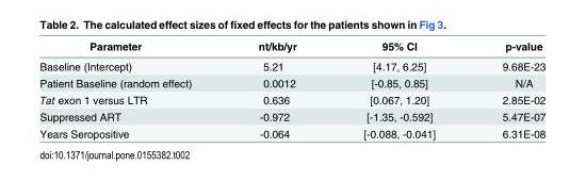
<table><thead><tr><td>Parameter</td><td>nt/kb/yr</td><td>95% CI</td><td>p-value</td></tr></thead><tbody><tr><td>Baseline (Intercept)</td><td>5.21</td><td>[4.17, 6.25]</td><td>9.68E-23</td></tr><tr><td>Patient Baseline (random effect)</td><td>0.0012</td><td>[-0.85, 0.85]</td><td>N/A</td></tr><tr><td>Tat exon 1 versus LTR</td><td>0.636</td><td>[0.067, 1.20]</td><td>2.85E-02</td></tr><tr><td>Suppressed ART</td><td>-0.972</td><td>[-1.35, -0.592]</td><td>5.47E-07</td></tr><tr><td>Years Seropositive</td><td>-0.064</td><td>[-0.088, -0.041]</td><td>6.31E-08</td></tr></tbody></table>